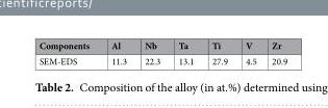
<table><thead><tr><td>Components</td><td>Al</td><td>Nb</td><td>Ta</td><td>Ti</td><td>V</td><td>Zr</td></tr></thead><tbody><tr><td>SEM-EDS</td><td>11.3</td><td>22.3</td><td>13.1</td><td>27.9</td><td>4.5</td><td>20.9</td></tr></tbody></table>